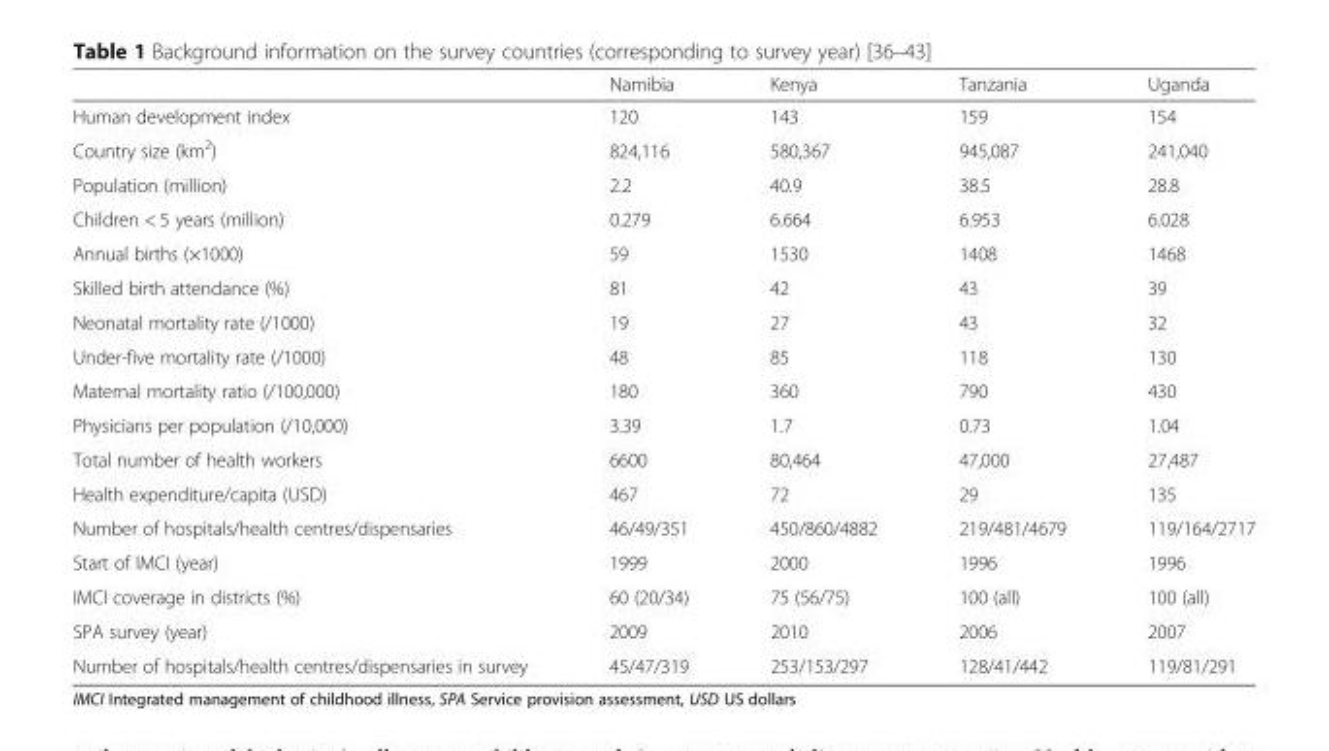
<table><thead><tr><td></td><td>Namibia</td><td>Kenya</td><td>Tanzania</td><td>Uganda</td></tr></thead><tbody><tr><td>Human development index</td><td>120</td><td>143</td><td>159</td><td>154</td></tr><tr><td>Country size (km<sup>2</sup>)</td><td>824,116</td><td>580,367</td><td>945,087</td><td>241,040</td></tr><tr><td>Population (million)</td><td>2.2</td><td>40.9</td><td>38.5</td><td>28.8</td></tr><tr><td>Children &lt; 5 years (million)</td><td>0.279</td><td>6.664</td><td>6.953</td><td>6.028</td></tr><tr><td>Annual births (×1000)</td><td>59</td><td>1530</td><td>1408</td><td>1468</td></tr><tr><td>Skilled birth attendance (%)</td><td>81</td><td>42</td><td>43</td><td>39</td></tr><tr><td>Neonatal mortality rate (/1000)</td><td>19</td><td>27</td><td>43</td><td>32</td></tr><tr><td>Under-five mortality rate (/1000)</td><td>48</td><td>85</td><td>118</td><td>130</td></tr><tr><td>Maternal mortality ratio (/100,000)</td><td>180</td><td>360</td><td>790</td><td>430</td></tr><tr><td>Physicians per population (/10,000)</td><td>3.39</td><td>1.7</td><td>0.73</td><td>1.04</td></tr><tr><td>Total number of health workers</td><td>6600</td><td>80,464</td><td>47,000</td><td>27,487</td></tr><tr><td>Health expenditure/capita (USD)</td><td>467</td><td>72</td><td>29</td><td>135</td></tr><tr><td>Number of hospitals/health centres/dispensaries</td><td>46/49/351</td><td>450/860/4882</td><td>219/481/4679</td><td>119/164/2717</td></tr><tr><td>Start of IMCI (year)</td><td>1999</td><td>2000</td><td>1996</td><td>1996</td></tr><tr><td>IMCI coverage in districts (%)</td><td>60 (20/34)</td><td>75 (56/75)</td><td>100 (all)</td><td>100 (all)</td></tr><tr><td>SPA survey (year)</td><td>2009</td><td>2010</td><td>2006</td><td>2007</td></tr><tr><td>Number of hospitals/health centres/dispensaries in survey</td><td>45/47/319</td><td>253/153/297</td><td>128/41/442</td><td>119/81/291</td></tr></tbody></table>